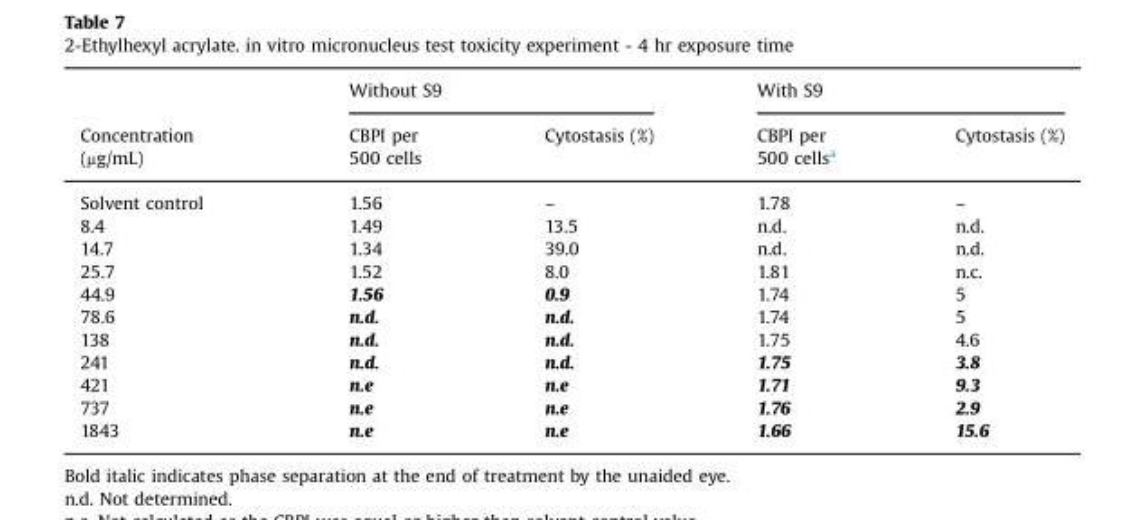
<table><thead><tr><td rowspan="2">Concentration (µg/mL)</td><td colspan="2">Without S9</td><td colspan="2">With S9</td></tr><tr><td>CBPI per 500 cells</td><td>Cytostasis (%)</td><td>CBPI per 500 cells<sup>a</sup></td><td>Cytostasis (%)</td></tr></thead><tbody><tr><td>Solvent control</td><td>1.56</td><td>–</td><td>1.78</td><td>–</td></tr><tr><td>8.4</td><td>1.49</td><td>13.5</td><td>n.d.</td><td>n.d.</td></tr><tr><td>14.7</td><td>1.34</td><td>39.0</td><td>n.d.</td><td>n.d.</td></tr><tr><td>25.7</td><td>1.52</td><td>8.0</td><td>1.81</td><td>n.c.</td></tr><tr><td>44.9</td><td>1.56</td><td>0.9</td><td>1.74</td><td>5</td></tr><tr><td>78.6</td><td>n.d.</td><td>n.d.</td><td>1.74</td><td>5</td></tr><tr><td>138</td><td>n.d.</td><td>n.d.</td><td>1.75</td><td>4.6</td></tr><tr><td>241</td><td>n.d.</td><td>n.d.</td><td>1.75</td><td>3.8</td></tr><tr><td>421</td><td>n.e</td><td>n.e</td><td>1.71</td><td>9.3</td></tr><tr><td>737</td><td>n.e</td><td>n.e</td><td>1.76</td><td>2.9</td></tr><tr><td>1843</td><td>n.e</td><td>n.e</td><td>1.66</td><td>15.6</td></tr></tbody></table>